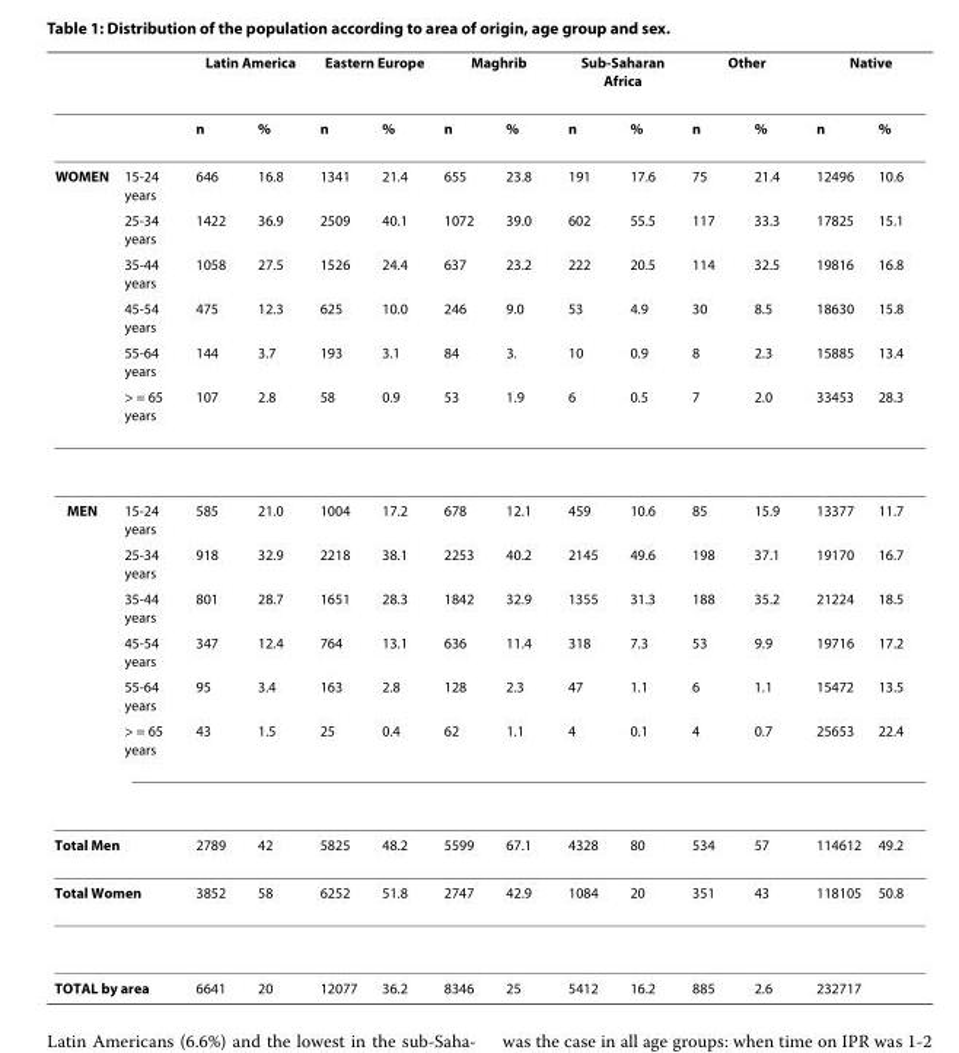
<table><thead><tr><td rowspan="2"></td><td rowspan="2"></td><td colspan="2">Latin America</td><td colspan="2">Eastern Europe</td><td colspan="2">Maghrib</td><td colspan="2">Sub-Saharan Africa</td><td colspan="2">Other</td><td colspan="2">Native</td></tr><tr><td>n</td><td>%</td><td>n</td><td>%</td><td>n</td><td>%</td><td>n</td><td>%</td><td>n</td><td>%</td><td>n</td><td>%</td></tr></thead><tbody><tr><td rowspan="6">WOMEN</td><td>15-24 years</td><td>646</td><td>16.8</td><td>1341</td><td>21.4</td><td>655</td><td>23.8</td><td>191</td><td>17.6</td><td>75</td><td>21.4</td><td>12496</td><td>10.6</td></tr><tr><td>25-34 years</td><td>1422</td><td>36.9</td><td>2509</td><td>40.1</td><td>1072</td><td>39.0</td><td>602</td><td>55.5</td><td>117</td><td>33.3</td><td>17825</td><td>15.1</td></tr><tr><td>35-44 years</td><td>1058</td><td>27.5</td><td>1526</td><td>24.4</td><td>637</td><td>23.2</td><td>222</td><td>20.5</td><td>114</td><td>32.5</td><td>19816</td><td>16.8</td></tr><tr><td>45-54 years</td><td>475</td><td>12.3</td><td>625</td><td>10.0</td><td>246</td><td>9.0</td><td>53</td><td>4.9</td><td>30</td><td>8.5</td><td>18630</td><td>15.8</td></tr><tr><td>55-64 years</td><td>144</td><td>3.7</td><td>193</td><td>3.1</td><td>84</td><td>3.</td><td>10</td><td>0.9</td><td>8</td><td>2.3</td><td>15885</td><td>13.4</td></tr><tr><td>&gt; = 65 years</td><td>107</td><td>2.8</td><td>58</td><td>0.9</td><td>53</td><td>1.9</td><td>6</td><td>0.5</td><td>7</td><td>2.0</td><td>33453</td><td>28.3</td></tr><tr><td rowspan="6">MEN</td><td>15-24 years</td><td>585</td><td>21.0</td><td>1004</td><td>17.2</td><td>678</td><td>12.1</td><td>459</td><td>10.6</td><td>85</td><td>15.9</td><td>13377</td><td>11.7</td></tr><tr><td>25-34 years</td><td>918</td><td>32.9</td><td>2218</td><td>38.1</td><td>2253</td><td>40.2</td><td>2145</td><td>49.6</td><td>198</td><td>37.1</td><td>19170</td><td>16.7</td></tr><tr><td>35-44 years</td><td>801</td><td>28.7</td><td>1651</td><td>28.3</td><td>1842</td><td>32.9</td><td>1355</td><td>31.3</td><td>188</td><td>35.2</td><td>21224</td><td>18.5</td></tr><tr><td>45-54 years</td><td>347</td><td>12.4</td><td>764</td><td>13.1</td><td>636</td><td>11.4</td><td>318</td><td>7.3</td><td>53</td><td>9.9</td><td>19716</td><td>17.2</td></tr><tr><td>55-64 years</td><td>95</td><td>3.4</td><td>163</td><td>2.8</td><td>128</td><td>2.3</td><td>47</td><td>1.1</td><td>6</td><td>1.1</td><td>15472</td><td>13.5</td></tr><tr><td>&gt; = 65 years</td><td>43</td><td>1.5</td><td>25</td><td>0.4</td><td>62</td><td>1.1</td><td>4</td><td>0.1</td><td>4</td><td>0.7</td><td>25653</td><td>22.4</td></tr><tr><td colspan="2">Total Men</td><td>2789</td><td>42</td><td>5825</td><td>48.2</td><td>5599</td><td>67.1</td><td>4328</td><td>80</td><td>534</td><td>57</td><td>114612</td><td>49.2</td></tr><tr><td colspan="2">Total Women</td><td>3852</td><td>58</td><td>6252</td><td>51.8</td><td>2747</td><td>42.9</td><td>1084</td><td>20</td><td>351</td><td>43</td><td>118105</td><td>50.8</td></tr><tr><td colspan="2">TOTAL by area</td><td>6641</td><td>20</td><td>12077</td><td>36.2</td><td>8346</td><td>25</td><td>5412</td><td>16.2</td><td>885</td><td>2.6</td><td>232717</td><td></td></tr></tbody></table>